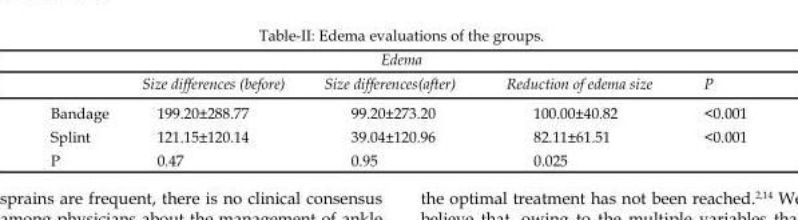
<table><thead><tr><td rowspan="2"></td><td colspan="4">Edema</td></tr><tr><td>Size differences (before)</td><td>Size differences(after)</td><td>Reduction of edema size</td><td>P</td></tr></thead><tbody><tr><td>Bandage</td><td>199.20±288.77</td><td>99.20±273.20</td><td>100.00±40.82</td><td>&lt;0.001</td></tr><tr><td>Splint</td><td>121.15±120.14</td><td>39.04±120.96</td><td>82.11±61.51</td><td>&lt;0.001</td></tr><tr><td>P</td><td>0.47</td><td>0.95</td><td>0.025</td><td></td></tr></tbody></table>